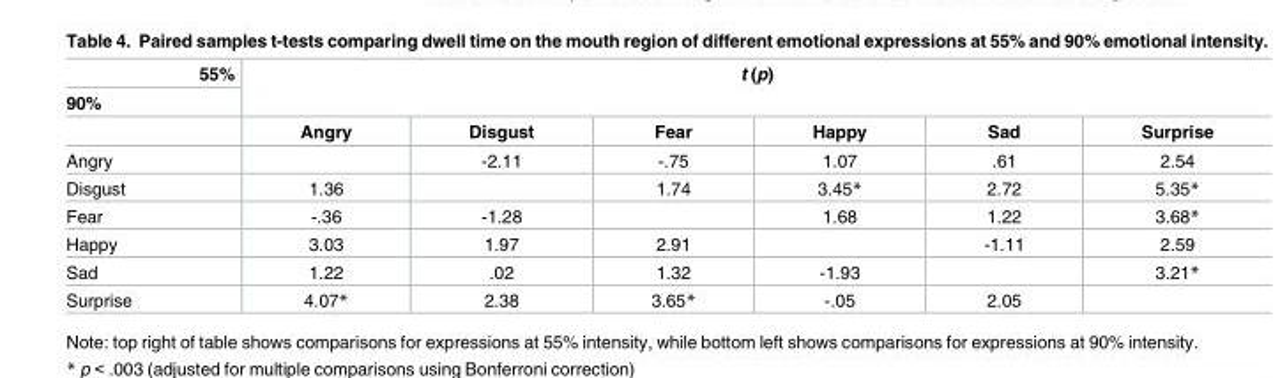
<table><thead><tr><td rowspan="3">55% 90%</td><td rowspan="2" colspan="6">t (p)</td></tr><tr></tr><tr><td>Angry</td><td>Disgust</td><td>Fear</td><td>Happy</td><td>Sad</td><td>Surprise</td></tr></thead><tbody><tr><td>Angry</td><td></td><td>-2.11</td><td>-.75</td><td>1.07</td><td>.61</td><td>2.54</td></tr><tr><td>Disgust</td><td>1.36</td><td></td><td>1.74</td><td>3.45*</td><td>2.72</td><td>5.35*</td></tr><tr><td>Fear</td><td>-.36</td><td>-1.28</td><td></td><td>1.68</td><td>1.22</td><td>3.68*</td></tr><tr><td>Happy</td><td>3.03</td><td>1.97</td><td>2.91</td><td></td><td>-1.11</td><td>2.59</td></tr><tr><td>Sad</td><td>1.22</td><td>.02</td><td>1.32</td><td>-1.93</td><td></td><td>3.21*</td></tr><tr><td>Surprise</td><td>4.07*</td><td>2.38</td><td>3.65*</td><td>-.05</td><td>2.05</td><td></td></tr></tbody></table>